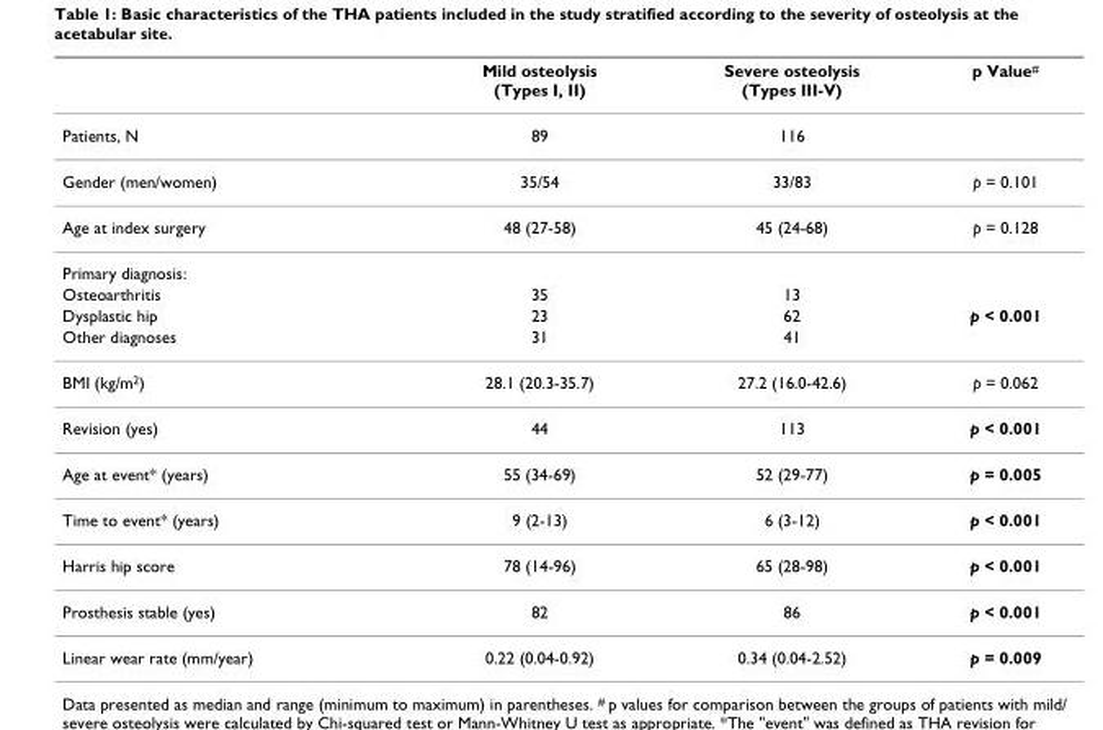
<table><thead><tr><td></td><td>Mild osteolysis (Types I, II)</td><td>Severe osteolysis (Types III-V)</td><td>p Value<sup>#</sup></td></tr></thead><tbody><tr><td>Patients, N</td><td>89</td><td>116</td><td></td></tr><tr><td>Gender (men/women)</td><td>35/54</td><td>33/83</td><td>p = 0.101</td></tr><tr><td>Age at index surgery</td><td>48 (27-58)</td><td>45 (24-68)</td><td>p = 0.128</td></tr><tr><td colspan="4">Primary diagnosis:</td></tr><tr><td>Osteoarthritis</td><td>35</td><td>13</td><td></td></tr><tr><td>Dysplastic hip</td><td>23</td><td>62</td><td>p &lt; 0.001</td></tr><tr><td>Other diagnoses</td><td>31</td><td>41</td><td></td></tr><tr><td>BMI (kg/m<sup>2</sup>)</td><td>28.1 (20.3-35.7)</td><td>27.2 (16.0-42.6)</td><td>p = 0.062</td></tr><tr><td>Revision (yes)</td><td>44</td><td>113</td><td>p &lt; 0.001</td></tr><tr><td>Age at event* (years)</td><td>55 (34-69)</td><td>52 (29-77)</td><td>p = 0.005</td></tr><tr><td>Time to event* (years)</td><td>9 (2-13)</td><td>6 (3-12)</td><td>p &lt; 0.001</td></tr><tr><td>Harris hip score</td><td>78 (14-96)</td><td>65 (28-98)</td><td>p &lt; 0.001</td></tr><tr><td>Prosthesis stable (yes)</td><td>82</td><td>86</td><td>p &lt; 0.001</td></tr><tr><td>Linear wear rate (mm/year)</td><td>0.22 (0.04-0.92)</td><td>0.34 (0.04-2.52)</td><td>p = 0.009</td></tr></tbody></table>